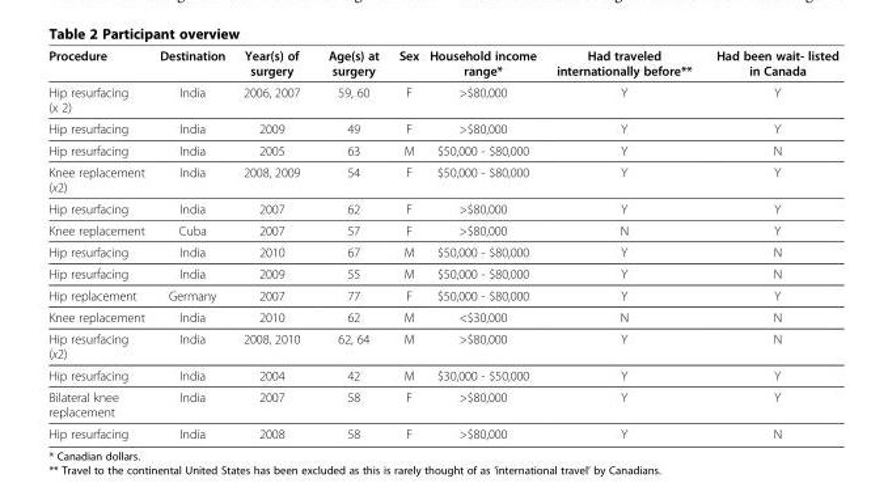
<table><thead><tr><td>Procedure</td><td>Destination</td><td>Year(s) of surgery</td><td>Age(s) at surgery</td><td>Sex</td><td>Household income range*</td><td>Had traveled internationally before**</td><td>Had been wait- listed in Canada</td></tr></thead><tbody><tr><td>Hip resurfacing (x 2)</td><td>India</td><td>2006, 2007</td><td>59, 60</td><td>F</td><td>&gt;$80,000</td><td>Y</td><td>Y</td></tr><tr><td>Hip resurfacing</td><td>India</td><td>2009</td><td>49</td><td>F</td><td>&gt;$80,000</td><td>Y</td><td>Y</td></tr><tr><td>Hip resurfacing</td><td>India</td><td>2005</td><td>63</td><td>M</td><td>$50,000 - $80,000</td><td>Y</td><td>N</td></tr><tr><td>Knee replacement (x2)</td><td>India</td><td>2008, 2009</td><td>54</td><td>F</td><td>$50,000 - $80,000</td><td>Y</td><td>Y</td></tr><tr><td>Hip resurfacing</td><td>India</td><td>2007</td><td>62</td><td>F</td><td>&gt;$80,000</td><td>Y</td><td>Y</td></tr><tr><td>Knee replacement</td><td>Cuba</td><td>2007</td><td>57</td><td>F</td><td>&gt;$80,000</td><td>N</td><td>Y</td></tr><tr><td>Hip resurfacing</td><td>India</td><td>2010</td><td>67</td><td>M</td><td>$50,000 - $80,000</td><td>Y</td><td>N</td></tr><tr><td>Hip resurfacing</td><td>India</td><td>2009</td><td>55</td><td>M</td><td>$50,000 - $80,000</td><td>Y</td><td>N</td></tr><tr><td>Hip replacement</td><td>Germany</td><td>2007</td><td>77</td><td>F</td><td>$50,000 - $80,000</td><td>Y</td><td>Y</td></tr><tr><td>Knee replacement</td><td>India</td><td>2010</td><td>62</td><td>M</td><td>&lt;$30,000</td><td>N</td><td>N</td></tr><tr><td>Hip resurfacing (x2)</td><td>India</td><td>2008, 2010</td><td>62, 64</td><td>M</td><td>&gt;$80,000</td><td>Y</td><td>N</td></tr><tr><td>Hip resurfacing</td><td>India</td><td>2004</td><td>42</td><td>M</td><td>$30,000 - $50,000</td><td>Y</td><td>Y</td></tr><tr><td>Bilateral knee replacement</td><td>India</td><td>2007</td><td>58</td><td>F</td><td>&gt;$80,000</td><td>Y</td><td>Y</td></tr><tr><td>Hip resurfacing</td><td>India</td><td>2008</td><td>58</td><td>F</td><td>&gt;$80,000</td><td>Y</td><td>N</td></tr></tbody></table>